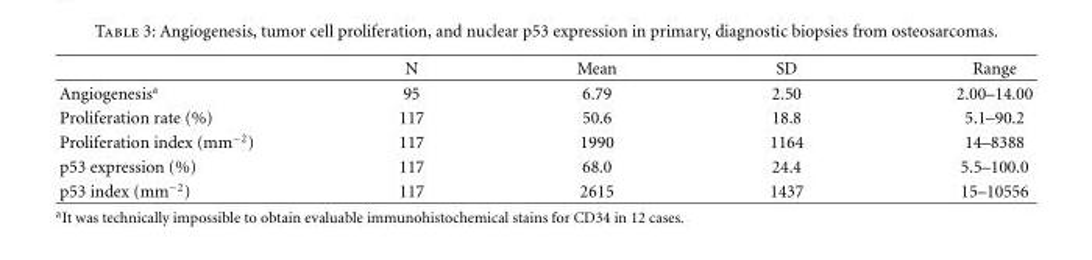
<table><thead><tr><td></td><td>N</td><td>Mean</td><td>SD</td><td>Range</td></tr></thead><tbody><tr><td>Angiogenesis<sup>a</sup></td><td>95</td><td>6.79</td><td>2.50</td><td>2.00–14.00</td></tr><tr><td>Proliferation rate (%)</td><td>117</td><td>50.6</td><td>18.8</td><td>5.1–90.2</td></tr><tr><td>Proliferation index (mm<sup>−2</sup>)</td><td>117</td><td>1990</td><td>1164</td><td>14–8388</td></tr><tr><td>p53 expression (%)</td><td>117</td><td>68.0</td><td>24.4</td><td>5.5–100.0</td></tr><tr><td>p53 index (mm<sup>−2</sup>)</td><td>117</td><td>2615</td><td>1437</td><td>15–10556</td></tr></tbody></table>